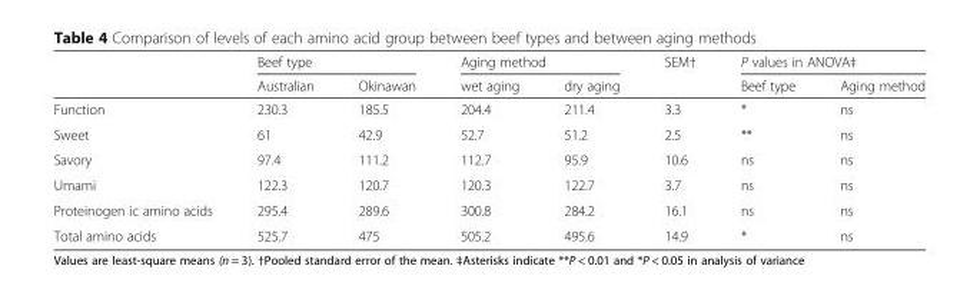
<table><thead><tr><td rowspan="2"></td><td colspan="2">Beef type</td><td colspan="2">Aging method</td><td rowspan="2">SEM†</td><td colspan="2">P values in ANOVA‡</td></tr><tr><td>Australian</td><td>Okinawan</td><td>wet aging</td><td>dry aging</td><td>Beef type</td><td>Aging method</td></tr></thead><tbody><tr><td>Function</td><td>230.3</td><td>185.5</td><td>204.4</td><td>211.4</td><td>3.3</td><td>*</td><td>ns</td></tr><tr><td>Sweet</td><td>61</td><td>42.9</td><td>52.7</td><td>51.2</td><td>2.5</td><td>**</td><td>ns</td></tr><tr><td>Savory</td><td>97.4</td><td>111.2</td><td>112.7</td><td>95.9</td><td>10.6</td><td>ns</td><td>ns</td></tr><tr><td>Umami</td><td>122.3</td><td>120.7</td><td>120.3</td><td>122.7</td><td>3.7</td><td>ns</td><td>ns</td></tr><tr><td>Proteinogen ic amino acids</td><td>295.4</td><td>289.6</td><td>300.8</td><td>284.2</td><td>16.1</td><td>ns</td><td>ns</td></tr><tr><td>Total amino acids</td><td>525.7</td><td>475</td><td>505.2</td><td>495.6</td><td>14.9</td><td>*</td><td>ns</td></tr></tbody></table>